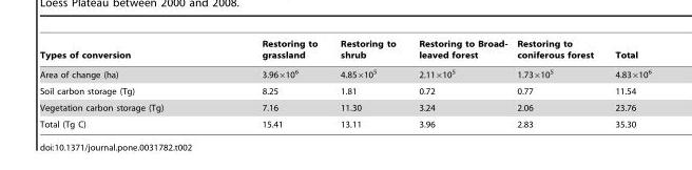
<table><thead><tr><td>Types of conversion</td><td>Restoring to grassland</td><td>Restoring to shrub</td><td>Restoring to Broad- leaved forest</td><td>Restoring to coniferous forest</td><td>Total</td></tr></thead><tbody><tr><td>Area of change (ha)</td><td>3.96×10<sup>6</sup></td><td>4.85×10<sup>5</sup></td><td>2.11×10<sup>5</sup></td><td>1.73×10<sup>5</sup></td><td>4.83×10<sup>6</sup></td></tr><tr><td>Soil carbon storage (Tg)</td><td>8.25</td><td>1.81</td><td>0.72</td><td>0.77</td><td>11.54</td></tr><tr><td>Vegetation carbon storage (Tg)</td><td>7.16</td><td>11.30</td><td>3.24</td><td>2.06</td><td>23.76</td></tr><tr><td>Total (Tg C)</td><td>15.41</td><td>13.11</td><td>3.96</td><td>2.83</td><td>35.30</td></tr></tbody></table>